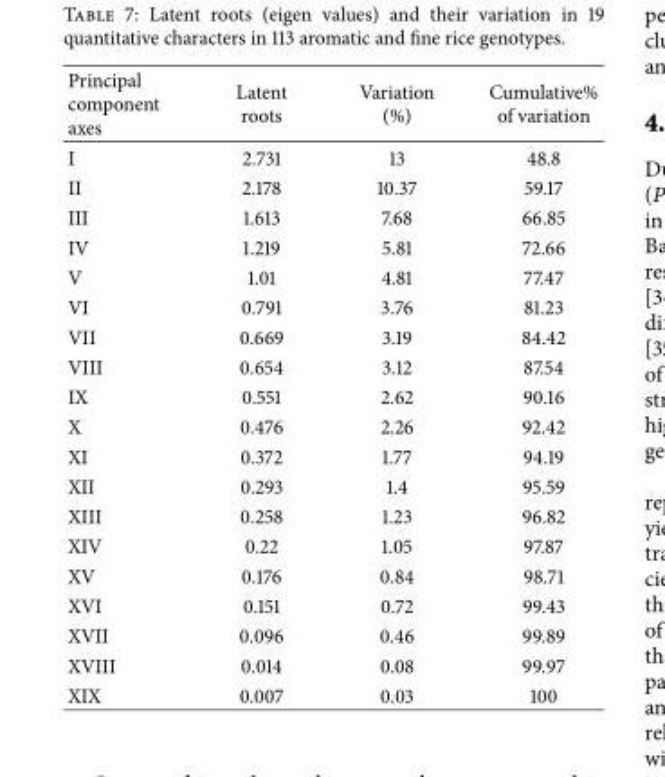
<table><thead><tr><td>Principal component axes</td><td>Latent roots</td><td>Variation (%)</td><td>Cumulative% of variation</td></tr></thead><tbody><tr><td>I</td><td>2.731</td><td>13</td><td>48.8</td></tr><tr><td>II</td><td>2.178</td><td>10.37</td><td>59.17</td></tr><tr><td>III</td><td>1.613</td><td>7.68</td><td>66.85</td></tr><tr><td>IV</td><td>1.219</td><td>5.81</td><td>72.66</td></tr><tr><td>V</td><td>1.01</td><td>4.81</td><td>77.47</td></tr><tr><td>VI</td><td>0.791</td><td>3.76</td><td>81.23</td></tr><tr><td>VII</td><td>0.669</td><td>3.19</td><td>84.42</td></tr><tr><td>VIII</td><td>0.654</td><td>3.12</td><td>87.54</td></tr><tr><td>IX</td><td>0.551</td><td>2.62</td><td>90.16</td></tr><tr><td>X</td><td>0.476</td><td>2.26</td><td>92.42</td></tr><tr><td>XI</td><td>0.372</td><td>1.77</td><td>94.19</td></tr><tr><td>XII</td><td>0.293</td><td>1.4</td><td>95.59</td></tr><tr><td>XIII</td><td>0.258</td><td>1.23</td><td>96.82</td></tr><tr><td>XIV</td><td>0.22</td><td>1.05</td><td>97.87</td></tr><tr><td>XV</td><td>0.176</td><td>0.84</td><td>98.71</td></tr><tr><td>XVI</td><td>0.151</td><td>0.72</td><td>99.43</td></tr><tr><td>XVII</td><td>0.096</td><td>0.46</td><td>99.89</td></tr><tr><td>XVIII</td><td>0.014</td><td>0.08</td><td>99.97</td></tr><tr><td>XIX</td><td>0.007</td><td>0.03</td><td>100</td></tr></tbody></table>